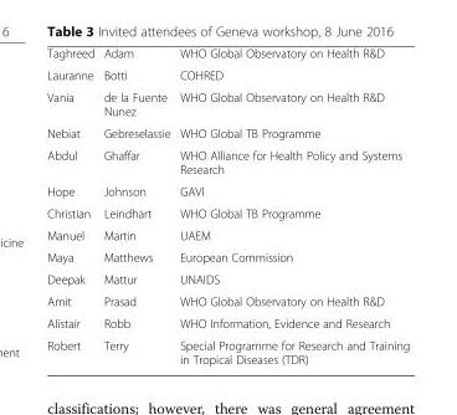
<table><tbody><tr><td>Taghreed</td><td>Adam</td><td>WHO Global Observatory on Health R&amp;D</td></tr><tr><td>Lauranne</td><td>Botti</td><td>COHRED</td></tr><tr><td>Vania</td><td>de la Fuente Nunez</td><td>WHO Global Observatory on Health R&amp;D</td></tr><tr><td>Nebiat</td><td>Gebreselassie</td><td>WHO Global TB Programme</td></tr><tr><td>Abdul</td><td>Ghaffar</td><td>WHO Alliance for Health Policy and Systems Research</td></tr><tr><td>Hope</td><td>Johnson</td><td>GAVI</td></tr><tr><td>Christian</td><td>Leindhart</td><td>WHO Global TB Programme</td></tr><tr><td>Manuel</td><td>Martin</td><td>UAEM</td></tr><tr><td>Maya</td><td>Matthews</td><td>European Commission</td></tr><tr><td>Deepak</td><td>Mattur</td><td>UNAIDS</td></tr><tr><td>Amit</td><td>Prasad</td><td>WHO Global Observatory on Health R&amp;D</td></tr><tr><td>Alistair</td><td>Robb</td><td>WHO Information, Evidence and Research</td></tr><tr><td>Robert</td><td>Terry</td><td>Special Programme for Research and Training in Tropical Diseases (TDR)</td></tr></tbody></table>